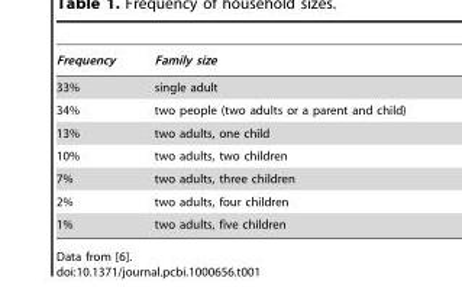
<table><thead><tr><td>Frequency</td><td>Family size</td></tr></thead><tbody><tr><td>33%</td><td>single adult</td></tr><tr><td>34%</td><td>two people (two adults or a parent and child)</td></tr><tr><td>13%</td><td>two adults, one child</td></tr><tr><td>10%</td><td>two adults, two children</td></tr><tr><td>7%</td><td>two adults, three children</td></tr><tr><td>2%</td><td>two adults, four children</td></tr><tr><td>1%</td><td>two adults, five children</td></tr></tbody></table>